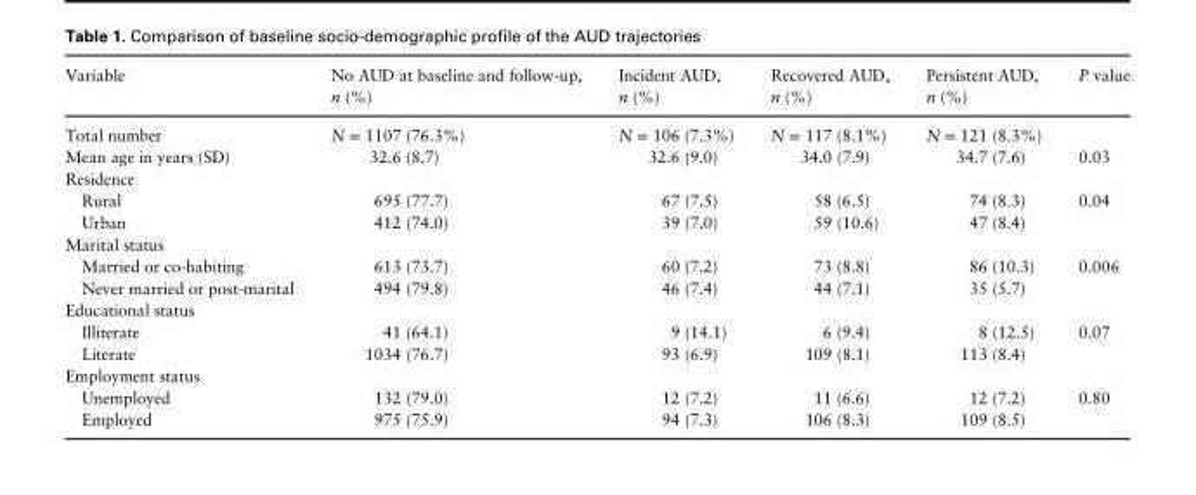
<table><thead><tr><td>Variable</td><td>No AUD at baseline and follow-up, n (%)</td><td>Incident AUD, n (%)</td><td>Recovered AUD, n (%)</td><td>Persistent AUD, n (%)</td><td>P value</td></tr></thead><tbody><tr><td>Total number</td><td>N = 1107 (76.3%)</td><td>N = 106 (7.3%)</td><td>N = 117 (8.1%)</td><td>N = 121 (8.3%)</td><td></td></tr><tr><td>Mean age in years (SD)</td><td>32.6 (8.7)</td><td>32.6 (9.0)</td><td>34.0 (7.9)</td><td>34.7 (7.6)</td><td>0.03</td></tr><tr><td colspan="6">Residence</td></tr><tr><td>Rural</td><td>695 (77.7)</td><td>67 (7.5)</td><td>58 (6.5)</td><td>74 (8.3)</td><td rowspan="2">0.04</td></tr><tr><td>Urban</td><td>412 (74.0)</td><td>39 (7.0)</td><td>59 (10.6)</td><td>47 (8.4)</td></tr><tr><td colspan="6">Marital status</td></tr><tr><td>Married or co-habiting</td><td>613 (73.7)</td><td>60 (7.2)</td><td>73 (8.8)</td><td>86 (10.3)</td><td rowspan="2">0.006</td></tr><tr><td>Never married or post-marital</td><td>494 (79.8)</td><td>46 (7.4)</td><td>44 (7.1)</td><td>35 (5.7)</td></tr><tr><td colspan="6">Educational status</td></tr><tr><td>Illiterate</td><td>41 (64.1)</td><td>9 (14.1)</td><td>6 (9.4)</td><td>8 (12.5)</td><td rowspan="2">0.07</td></tr><tr><td>Literate</td><td>1034 (76.7)</td><td>93 (6.9)</td><td>109 (8.1)</td><td>113 (8.4)</td></tr><tr><td colspan="6">Employment status</td></tr><tr><td>Unemployed</td><td>132 (79.0)</td><td>12 (7.2)</td><td>11 (6.6)</td><td>12 (7.2)</td><td rowspan="2">0.80</td></tr><tr><td>Employed</td><td>975 (75.9)</td><td>94 (7.3)</td><td>106 (8.3)</td><td>109 (8.5)</td></tr></tbody></table>